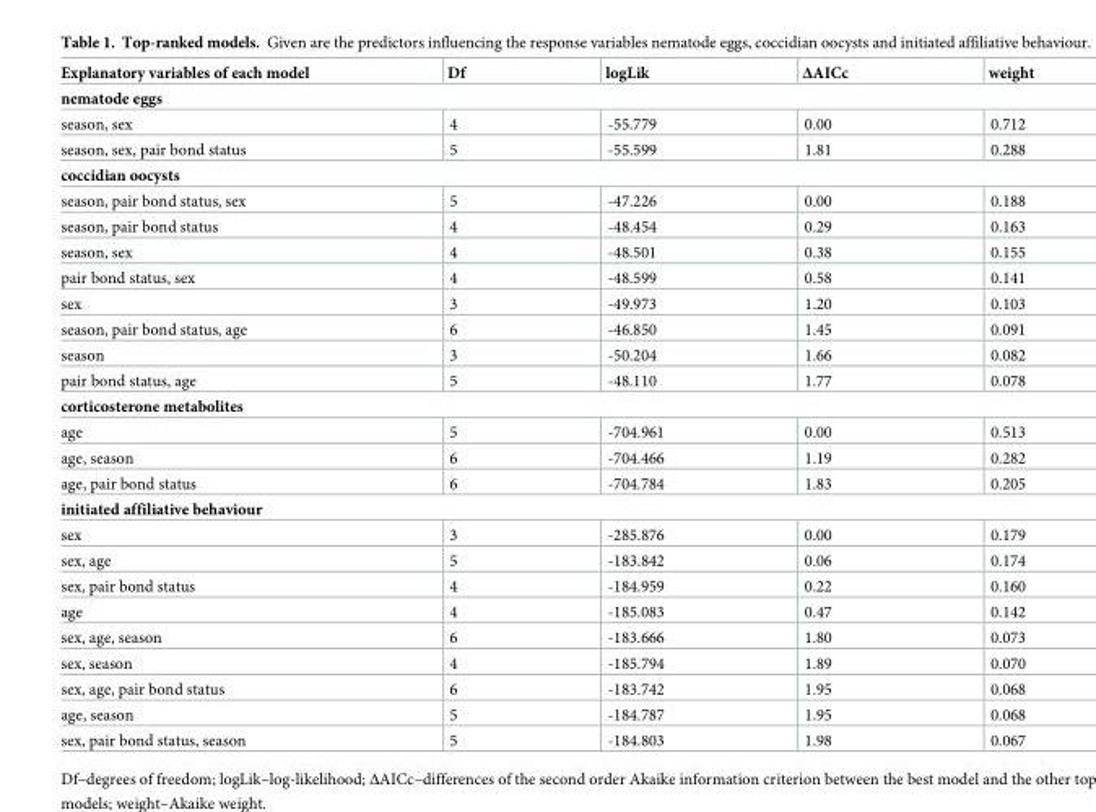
<table><thead><tr><td>Explanatory variables of each model</td><td>Df</td><td>logLik</td><td>ΔAICc</td><td>weight</td></tr></thead><tbody><tr><td colspan="5">nematode eggs</td></tr><tr><td>season, sex</td><td>4</td><td>-55.779</td><td>0.00</td><td>0.712</td></tr><tr><td>season, sex, pair bond status</td><td>5</td><td>-55.599</td><td>1.81</td><td>0.288</td></tr><tr><td colspan="5">coccidian oocysts</td></tr><tr><td>season, pair bond status, sex</td><td>5</td><td>-47.226</td><td>0.00</td><td>0.188</td></tr><tr><td>season, pair bond status</td><td>4</td><td>-48.454</td><td>0.29</td><td>0.163</td></tr><tr><td>season, sex</td><td>4</td><td>-48.501</td><td>0.38</td><td>0.155</td></tr><tr><td>pair bond status, sex</td><td>4</td><td>-48.599</td><td>0.58</td><td>0.141</td></tr><tr><td>sex</td><td>3</td><td>-49.973</td><td>1.20</td><td>0.103</td></tr><tr><td>season, pair bond status, age</td><td>6</td><td>-46.850</td><td>1.45</td><td>0.091</td></tr><tr><td>season</td><td>3</td><td>-50.204</td><td>1.66</td><td>0.082</td></tr><tr><td>pair bond status, age</td><td>5</td><td>-48.110</td><td>1.77</td><td>0.078</td></tr><tr><td colspan="5">corticosterone metabolites</td></tr><tr><td>age</td><td>5</td><td>-704.961</td><td>0.00</td><td>0.513</td></tr><tr><td>age, season</td><td>6</td><td>-704.466</td><td>1.19</td><td>0.282</td></tr><tr><td>age, pair bond status</td><td>6</td><td>-704.784</td><td>1.83</td><td>0.205</td></tr><tr><td colspan="5">initiated affiliative behaviour</td></tr><tr><td>sex</td><td>3</td><td>-285.876</td><td>0.00</td><td>0.179</td></tr><tr><td>sex, age</td><td>5</td><td>-183.842</td><td>0.06</td><td>0.174</td></tr><tr><td>sex, pair bond status</td><td>4</td><td>-184.959</td><td>0.22</td><td>0.160</td></tr><tr><td>age</td><td>4</td><td>-185.083</td><td>0.47</td><td>0.142</td></tr><tr><td>sex, age, season</td><td>6</td><td>-183.666</td><td>1.80</td><td>0.073</td></tr><tr><td>sex, season</td><td>4</td><td>-185.794</td><td>1.89</td><td>0.070</td></tr><tr><td>sex, age, pair bond status</td><td>6</td><td>-183.742</td><td>1.95</td><td>0.068</td></tr><tr><td>age, season</td><td>5</td><td>-184.787</td><td>1.95</td><td>0.068</td></tr><tr><td>sex, pair bond status, season</td><td>5</td><td>-184.803</td><td>1.98</td><td>0.067</td></tr></tbody></table>